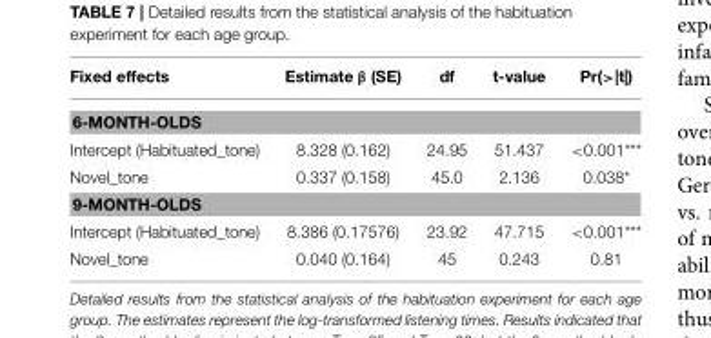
<table><thead><tr><td>Fixed effects</td><td>Estimate β (SE)</td><td>df</td><td>t-value</td><td>Pr(&gt;|t|)</td></tr></thead><tbody><tr><td colspan="5">6-MONTH-OLDS</td></tr><tr><td>Intercept (Habituated_tone)</td><td>8.328 (0.162)</td><td>24.95</td><td>51.437</td><td>&lt;0.001***</td></tr><tr><td>Novel_tone</td><td>0.337 (0.158)</td><td>45.0</td><td>2.136</td><td>0.038*</td></tr><tr><td colspan="5">9-MONTH-OLDS</td></tr><tr><td>Intercept (Habituated_tone)</td><td>8.386 (0.17576)</td><td>23.92</td><td>47.715</td><td>&lt;0.001***</td></tr><tr><td>Novel_tone</td><td>0.040 (0.164)</td><td>45</td><td>0.243</td><td>0.81</td></tr></tbody></table>